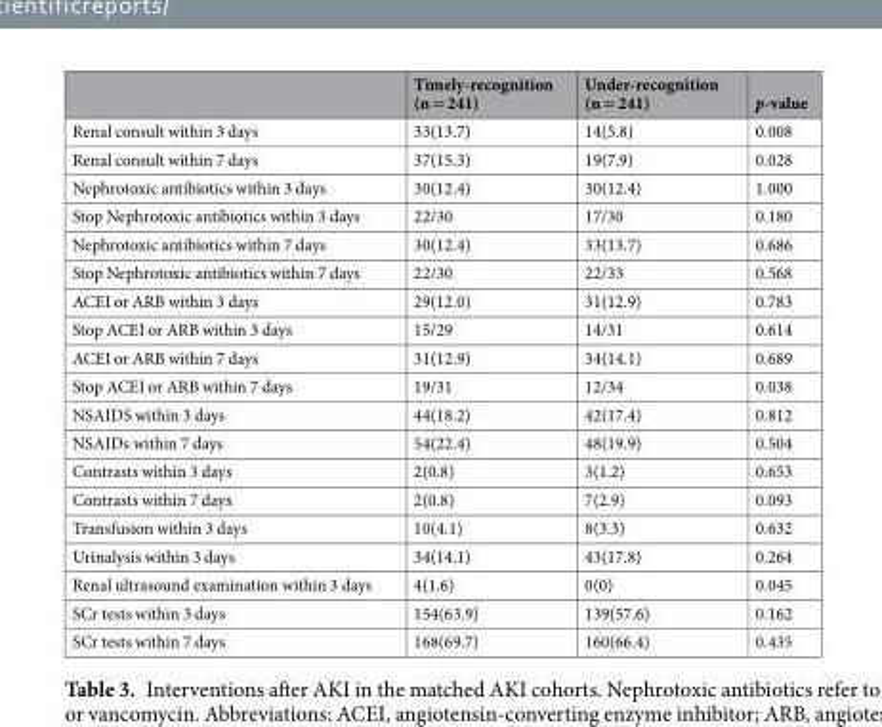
<table><thead><tr><td></td><td>Timely-recognition (n = 241)</td><td>Under-recognition (n = 241)</td><td>p-value</td></tr></thead><tbody><tr><td>Renal consult within 3 days</td><td>33(13.7)</td><td>14(5.8)</td><td>0.008</td></tr><tr><td>Renal consult within 7 days</td><td>37(15.3)</td><td>19(7.9)</td><td>0.028</td></tr><tr><td>Nephrotoxic antibiotics within 3 days</td><td>30(12.4)</td><td>30(12.4)</td><td>1.000</td></tr><tr><td>Stop Nephrotoxic antibiotics within 3 days</td><td>22/30</td><td>17/30</td><td>0.180</td></tr><tr><td>Nephrotoxic antibiotics within 7 days</td><td>30(12.4)</td><td>33(13.7)</td><td>0.686</td></tr><tr><td>Stop Nephrotoxic antibiotics within 7 days</td><td>22/30</td><td>22/33</td><td>0.568</td></tr><tr><td>ACEI or ARB within 3 days</td><td>29(12.0)</td><td>31(12.9)</td><td>0.783</td></tr><tr><td>Stop ACEI or ARB within 3 days</td><td>15/29</td><td>14/31</td><td>0.614</td></tr><tr><td>ACEI or ARB within 7 days</td><td>31(12.9)</td><td>34(14.1)</td><td>0.689</td></tr><tr><td>Stop ACEI or ARB within 7 days</td><td>19/31</td><td>12/34</td><td>0.038</td></tr><tr><td>NSAIDS within 3 days</td><td>44(18.2)</td><td>42(17.4)</td><td>0.812</td></tr><tr><td>NSAIDs within 7 days</td><td>54(22.4)</td><td>48(19.9)</td><td>0.504</td></tr><tr><td>Contrasts within 3 days</td><td>2(0.8)</td><td>3(1.2)</td><td>0.653</td></tr><tr><td>Contrasts within 7 days</td><td>2(0.8)</td><td>7(2.9)</td><td>0.093</td></tr><tr><td>Transfusion within 3 days</td><td>10(4.1)</td><td>8(3.3)</td><td>0.632</td></tr><tr><td>Urinalysis within 3 days</td><td>34(14.1)</td><td>43(17.8)</td><td>0.264</td></tr><tr><td>Renal ultrasound examination within 3 days</td><td>4(1.6)</td><td>0(0)</td><td>0.045</td></tr><tr><td>SCr tests within 3 days</td><td>154(63.9)</td><td>139(57.6)</td><td>0.162</td></tr><tr><td>SCr tests within 7 days</td><td>168(69.7)</td><td>160(66.4)</td><td>0.435</td></tr></tbody></table>